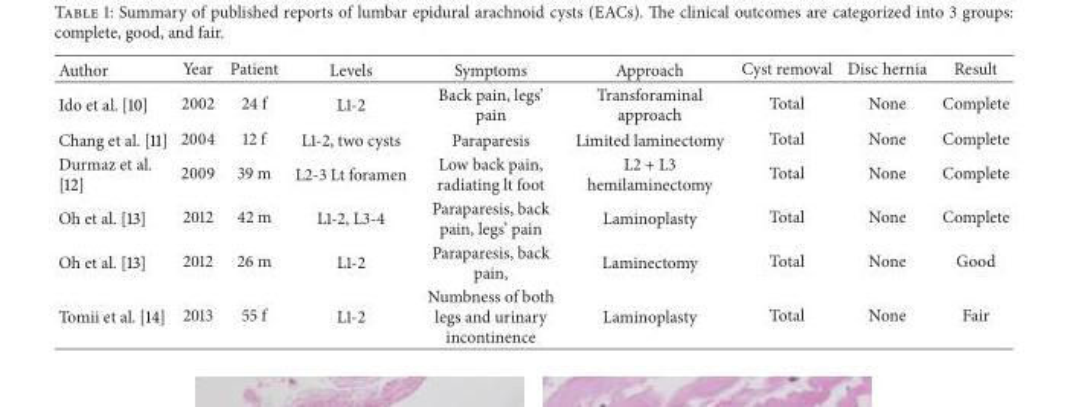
<table><thead><tr><td>Author</td><td>Year</td><td>Patient</td><td>Levels</td><td>Symptoms</td><td>Approach</td><td>Cyst removal</td><td>Disc hernia</td><td>Result</td></tr></thead><tbody><tr><td>Ido et al. [10]</td><td>2002</td><td>24 f</td><td>L1-2</td><td>Back pain, legs’ pain</td><td>Transforaminal approach</td><td>Total</td><td>None</td><td>Complete</td></tr><tr><td>Chang et al. [11]</td><td>2004</td><td>12 f</td><td>L1-2, two cysts</td><td>Paraparesis</td><td>Limited laminectomy</td><td>Total</td><td>None</td><td>Complete</td></tr><tr><td>Durmaz et al. [12]</td><td>2009</td><td>39 m</td><td>L2-3 Lt foramen</td><td>Low back pain, radiating lt foot</td><td>L2 + L3 hemilaminectomy</td><td>Total</td><td>None</td><td>Complete</td></tr><tr><td>Oh et al. [13]</td><td>2012</td><td>42 m</td><td>L1-2, L3-4</td><td>Paraparesis, back pain, legs’ pain</td><td>Laminoplasty</td><td>Total</td><td>None</td><td>Complete</td></tr><tr><td>Oh et al. [13]</td><td>2012</td><td>26 m</td><td>L1-2</td><td>Paraparesis, back pain,</td><td>Laminectomy</td><td>Total</td><td>None</td><td>Good</td></tr><tr><td>Tomii et al. [14]</td><td>2013</td><td>55 f</td><td>L1-2</td><td>Numbness of both legs and urinary incontinence</td><td>Laminoplasty</td><td>Total</td><td>None</td><td>Fair</td></tr></tbody></table>